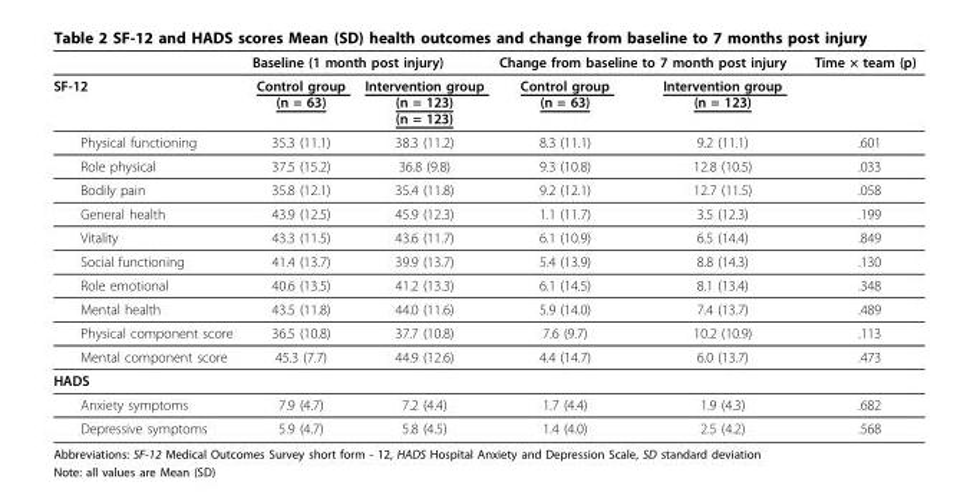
<table><thead><tr><td rowspan="2">SF-12</td><td colspan="2">Baseline (1 month post injury)</td><td colspan="2">Change from baseline to 7 month post injury</td><td rowspan="2">Time × team (p)</td></tr><tr><td>Control group (n = 63)</td><td>Intervention group (n = 123) (n = 123)</td><td>Control group (n = 63)</td><td>Intervention group (n = 123)</td></tr></thead><tbody><tr><td>Physical functioning</td><td>35.3 (11.1)</td><td>38.3 (11.2)</td><td>8.3 (11.1)</td><td>9.2 (11.1)</td><td>.601</td></tr><tr><td>Role physical</td><td>37.5 (15.2)</td><td>36.8 (9.8)</td><td>9.3 (10.8)</td><td>12.8 (10.5)</td><td>.033</td></tr><tr><td>Bodily pain</td><td>35.8 (12.1)</td><td>35.4 (11.8)</td><td>9.2 (12.1)</td><td>12.7 (11.5)</td><td>.058</td></tr><tr><td>General health</td><td>43.9 (12.5)</td><td>45.9 (12.3)</td><td>1.1 (11.7)</td><td>3.5 (12.3)</td><td>.199</td></tr><tr><td>Vitality</td><td>43.3 (11.5)</td><td>43.6 (11.7)</td><td>6.1 (10.9)</td><td>6.5 (14.4)</td><td>.849</td></tr><tr><td>Social functioning</td><td>41.4 (13.7)</td><td>39.9 (13.7)</td><td>5.4 (13.9)</td><td>8.8 (14.3)</td><td>.130</td></tr><tr><td>Role emotional</td><td>40.6 (13.5)</td><td>41.2 (13.3)</td><td>6.1 (14.5)</td><td>8.1 (13.4)</td><td>.348</td></tr><tr><td>Mental health</td><td>43.5 (11.8)</td><td>44.0 (11.6)</td><td>5.9 (14.0)</td><td>7.4 (13.7)</td><td>.489</td></tr><tr><td>Physical component score</td><td>36.5 (10.8)</td><td>37.7 (10.8)</td><td>7.6 (9.7)</td><td>10.2 (10.9)</td><td>.113</td></tr><tr><td>Mental component score</td><td>45.3 (7.7)</td><td>44.9 (12.6)</td><td>4.4 (14.7)</td><td>6.0 (13.7)</td><td>.473</td></tr><tr><td colspan="6">HADS</td></tr><tr><td>Anxiety symptoms</td><td>7.9 (4.7)</td><td>7.2 (4.4)</td><td>1.7 (4.4)</td><td>1.9 (4.3)</td><td>.682</td></tr><tr><td>Depressive symptoms</td><td>5.9 (4.7)</td><td>5.8 (4.5)</td><td>1.4 (4.0)</td><td>2.5 (4.2)</td><td>.568</td></tr></tbody></table>